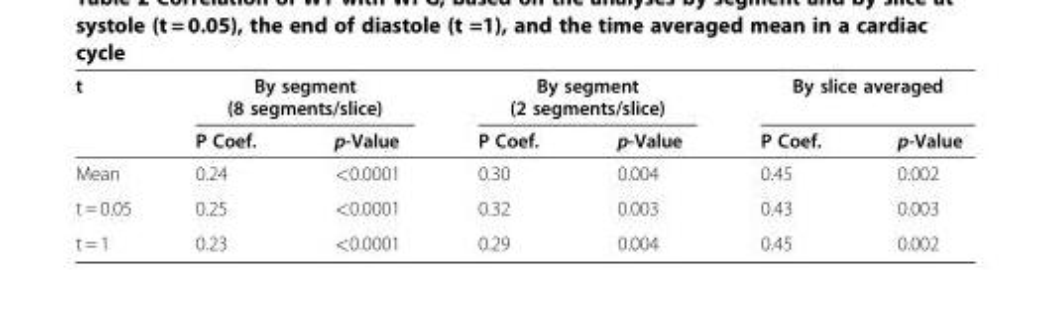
<table><thead><tr><td rowspan="2">t</td><td colspan="2">By segment (8 segments/slice)</td><td colspan="2">By segment (2 segments/slice)</td><td colspan="2">By slice averaged</td></tr><tr><td>P Coef.</td><td>p-Value</td><td>P Coef.</td><td>p-Value</td><td>P Coef.</td><td>p-Value</td></tr></thead><tbody><tr><td>Mean</td><td>0.24</td><td>&lt;0.0001</td><td>0.30</td><td>0.004</td><td>0.45</td><td>0.002</td></tr><tr><td>t = 0.05</td><td>0.25</td><td>&lt;0.0001</td><td>0.32</td><td>0.003</td><td>0.43</td><td>0.003</td></tr><tr><td>t = 1</td><td>0.23</td><td>&lt;0.0001</td><td>0.29</td><td>0.004</td><td>0.45</td><td>0.002</td></tr></tbody></table>